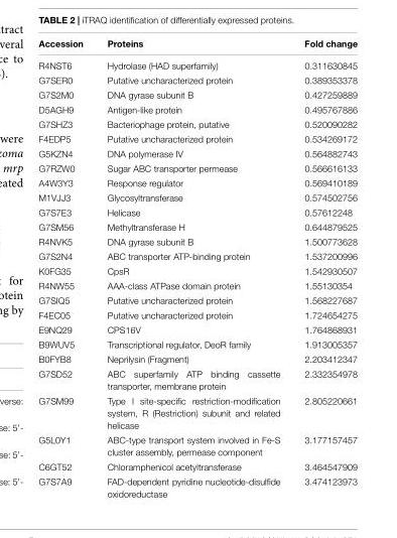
<table><thead><tr><td>Accession</td><td>Proteins</td><td>Fold change</td></tr></thead><tbody><tr><td>R4NST6</td><td>Hydrolase (HAD superfamily)</td><td>0.311630845</td></tr><tr><td>G7SER0</td><td>Putative uncharacterized protein</td><td>0.389353378</td></tr><tr><td>G7S2M0</td><td>DNA gyrase subunit B</td><td>0.427259889</td></tr><tr><td>D5AGH9</td><td>Antigen-like protein</td><td>0.495767886</td></tr><tr><td>G7SHZ3</td><td>Bacteriophage protein, putative</td><td>0.520090282</td></tr><tr><td>F4EDP5</td><td>Putative uncharacterized protein</td><td>0.534269172</td></tr><tr><td>G5KZN4</td><td>DNA polymerase IV</td><td>0.564882743</td></tr><tr><td>G7RZW0</td><td>Sugar ABC transporter permease</td><td>0.566616133</td></tr><tr><td>A4W3Y3</td><td>Response regulator</td><td>0.569410189</td></tr><tr><td>M1VJJ3</td><td>Glycosyltransferase</td><td>0.574502756</td></tr><tr><td>G7S7E3</td><td>Helicase</td><td>0.57612248</td></tr><tr><td>G7SM56</td><td>Methyltransferase H</td><td>0.644879525</td></tr><tr><td>R4NVK5</td><td>DNA gyrase subunit B</td><td>1.500773628</td></tr><tr><td>G7S2N4</td><td>ABC transporter ATP-binding protein</td><td>1.537200996</td></tr><tr><td>K0FG35</td><td>CpsR</td><td>1.542930507</td></tr><tr><td>R4NW55</td><td>AAA-class ATPase domain protein</td><td>1.55130354</td></tr><tr><td>G7SIQ5</td><td>Putative uncharacterized protein</td><td>1.568227687</td></tr><tr><td>F4EC05</td><td>Putative uncharacterized protein</td><td>1.724654275</td></tr><tr><td>E9NQ29</td><td>CPS16V</td><td>1.764868931</td></tr><tr><td>B9WUV5</td><td>Transcriptional regulator, DeoR family</td><td>1.913005357</td></tr><tr><td>B0FYB8</td><td>Neprilysin (Fragment)</td><td>2.203412347</td></tr><tr><td>G7SD52</td><td>ABC superfamily ATP binding cassette transporter, membrane protein</td><td>2.332354978</td></tr><tr><td>G7SM99</td><td>Type I site-specific restriction-modification system, R (Restriction) subunit and related helicase</td><td>2.805220661</td></tr><tr><td>G5L0Y1</td><td>ABC-type transport system involved in Fe-S cluster assembly, permease component</td><td>3.177157457</td></tr><tr><td>C6GT52</td><td>Chloramphenicol acetyltransferase</td><td>3.464547909</td></tr><tr><td>G7S7A9</td><td>FAD-dependent pyridine nucleotide-disulfide oxidoreductase</td><td>3.474123973</td></tr></tbody></table>